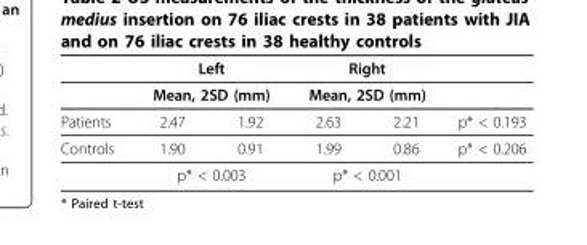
<table><thead><tr><td rowspan="3">Patients</td><td rowspan="2" colspan="2">Left Mean, 2SD (mm)</td><td rowspan="2" colspan="2">Right Mean, 2SD (mm)</td><td rowspan="3">p* &lt; 0.193</td></tr><tr></tr><tr><td>2.47</td><td>1.92</td><td>2.63</td><td>2.21</td></tr></thead><tbody><tr><td rowspan="2">Controls</td><td>1.90</td><td>0.91</td><td>1.99</td><td>0.86</td><td>p* &lt; 0.206</td></tr><tr><td colspan="2">p* &lt; 0.003</td><td colspan="2">p* &lt; 0.001</td><td></td></tr></tbody></table>